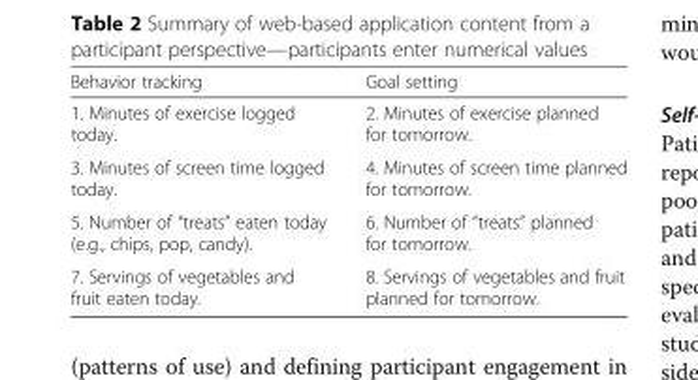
<table><thead><tr><td>Behavior tracking</td><td>Goal setting</td></tr></thead><tbody><tr><td>1. Minutes of exercise logged today.</td><td>2. Minutes of exercise planned for tomorrow.</td></tr><tr><td>3. Minutes of screen time logged today.</td><td>4. Minutes of screen time planned for tomorrow.</td></tr><tr><td>5. Number of “treats” eaten today (e.g., chips, pop, candy).</td><td>6. Number of “treats” planned for tomorrow.</td></tr><tr><td>7. Servings of vegetables and fruit eaten today.</td><td>8. Servings of vegetables and fruit planned for tomorrow.</td></tr></tbody></table>